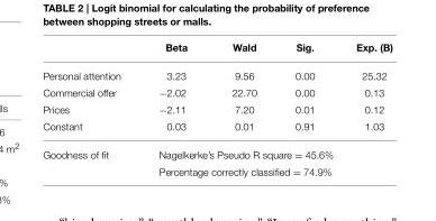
<table><thead><tr><td></td><td>Beta</td><td>Wald</td><td>Sig.</td><td>Exp. (B)</td></tr></thead><tbody><tr><td>Personal attention</td><td>3.23</td><td>9.56</td><td>0.00</td><td>25.32</td></tr><tr><td>Commercial offer</td><td>−2.02</td><td>22.70</td><td>0.00</td><td>0.13</td></tr><tr><td>Prices</td><td>−2.11</td><td>7.20</td><td>0.01</td><td>0.12</td></tr><tr><td>Constant</td><td>0.03</td><td>0.01</td><td>0.91</td><td>1.03</td></tr><tr><td rowspan="2">Goodness of fit</td><td colspan="4">Nagelkerke’s Pseudo R square = 45.6%</td></tr><tr><td colspan="4">Percentage correctly classified = 74.9%</td></tr></tbody></table>